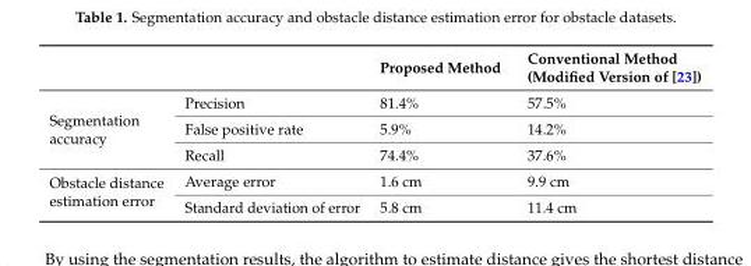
<table><thead><tr><td></td><td></td><td>Proposed Method</td><td>Conventional Method (Modified Version of [23])</td></tr></thead><tbody><tr><td rowspan="3">Segmentation accuracy</td><td>Precision</td><td>81.4%</td><td>57.5%</td></tr><tr><td>False positive rate</td><td>5.9%</td><td>14.2%</td></tr><tr><td>Recall</td><td>74.4%</td><td>37.6%</td></tr><tr><td rowspan="2">Obstacle distance estimation error</td><td>Average error</td><td>1.6 cm</td><td>9.9 cm</td></tr><tr><td>Standard deviation of error</td><td>5.8 cm</td><td>11.4 cm</td></tr></tbody></table>